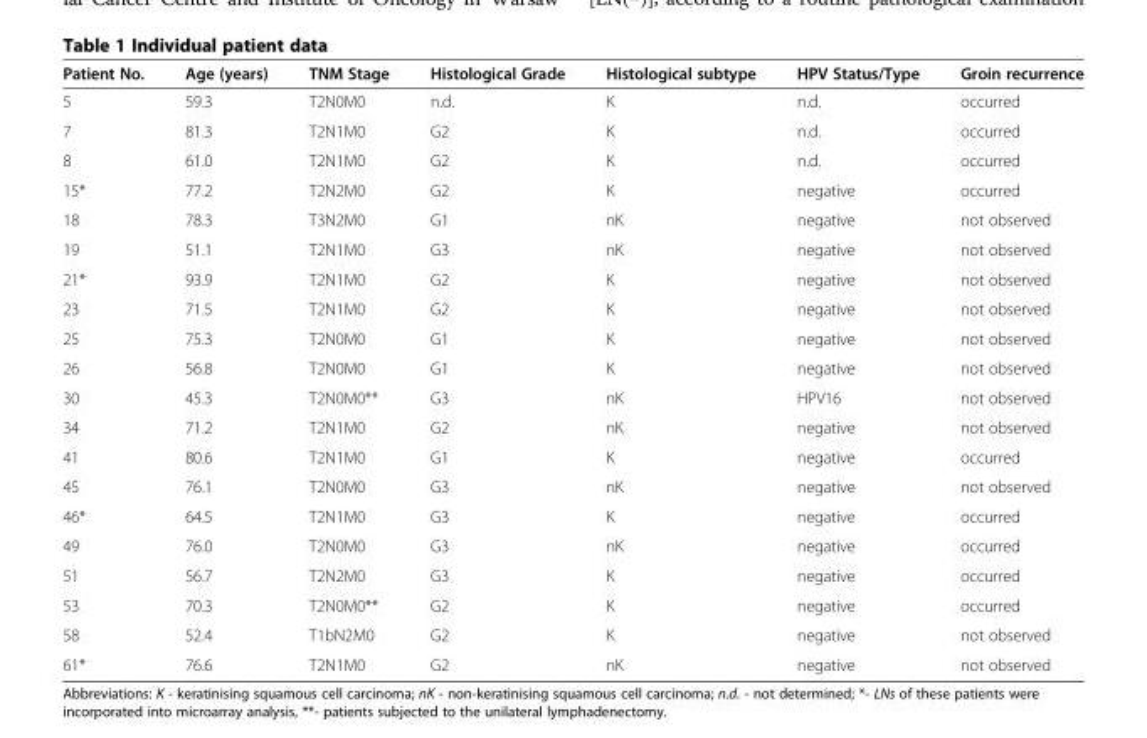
<table><thead><tr><td>Patient No.</td><td>Age (years)</td><td>TNM Stage</td><td>Histological Grade</td><td>Histological subtype</td><td>HPV Status/Type</td><td>Groin recurrence</td></tr></thead><tbody><tr><td>5</td><td>59.3</td><td>T2N0M0</td><td>n.d.</td><td>K</td><td>n.d.</td><td>occurred</td></tr><tr><td>7</td><td>81.3</td><td>T2N1M0</td><td>G2</td><td>K</td><td>n.d.</td><td>occurred</td></tr><tr><td>8</td><td>61.0</td><td>T2N1M0</td><td>G2</td><td>K</td><td>n.d.</td><td>occurred</td></tr><tr><td>15*</td><td>77.2</td><td>T2N2M0</td><td>G2</td><td>K</td><td>negative</td><td>occurred</td></tr><tr><td>18</td><td>78.3</td><td>T3N2M0</td><td>G1</td><td>nK</td><td>negative</td><td>not observed</td></tr><tr><td>19</td><td>51.1</td><td>T2N1M0</td><td>G3</td><td>nK</td><td>negative</td><td>not observed</td></tr><tr><td>21*</td><td>93.9</td><td>T2N1M0</td><td>G2</td><td>K</td><td>negative</td><td>not observed</td></tr><tr><td>23</td><td>71.5</td><td>T2N1M0</td><td>G2</td><td>K</td><td>negative</td><td>not observed</td></tr><tr><td>25</td><td>75.3</td><td>T2N0M0</td><td>G1</td><td>K</td><td>negative</td><td>not observed</td></tr><tr><td>26</td><td>56.8</td><td>T2N0M0</td><td>G1</td><td>K</td><td>negative</td><td>not observed</td></tr><tr><td>30</td><td>45.3</td><td>T2N0M0**</td><td>G3</td><td>nK</td><td>HPV16</td><td>not observed</td></tr><tr><td>34</td><td>71.2</td><td>T2N1M0</td><td>G2</td><td>nK</td><td>negative</td><td>not observed</td></tr><tr><td>41</td><td>80.6</td><td>T2N1M0</td><td>G1</td><td>K</td><td>negative</td><td>occurred</td></tr><tr><td>45</td><td>76.1</td><td>T2N0M0</td><td>G3</td><td>nK</td><td>negative</td><td>not observed</td></tr><tr><td>46*</td><td>64.5</td><td>T2N1M0</td><td>G3</td><td>K</td><td>negative</td><td>occurred</td></tr><tr><td>49</td><td>76.0</td><td>T2N0M0</td><td>G3</td><td>nK</td><td>negative</td><td>occurred</td></tr><tr><td>51</td><td>56.7</td><td>T2N2M0</td><td>G3</td><td>K</td><td>negative</td><td>occurred</td></tr><tr><td>53</td><td>70.3</td><td>T2N0M0**</td><td>G2</td><td>K</td><td>negative</td><td>occurred</td></tr><tr><td>58</td><td>52.4</td><td>T1bN2M0</td><td>G2</td><td>K</td><td>negative</td><td>not observed</td></tr><tr><td>61*</td><td>76.6</td><td>T2N1M0</td><td>G2</td><td>nK</td><td>negative</td><td>not observed</td></tr></tbody></table>